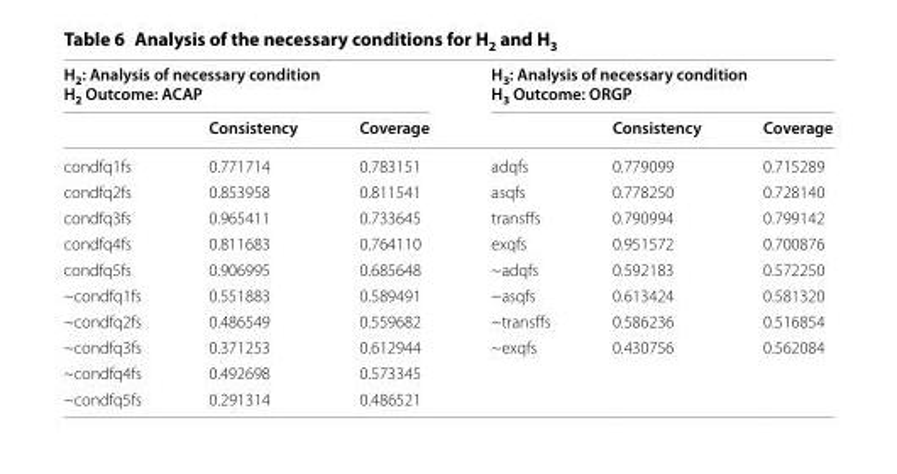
<table><thead><tr><td colspan="3">H<sub>2</sub>: Analysis of necessary condition H<sub>2</sub> Outcome: ACAP</td><td colspan="3">H<sub>3</sub>: Analysis of necessary condition H<sub>3</sub> Outcome: ORGP</td></tr><tr><td></td><td>Consistency</td><td>Coverage</td><td></td><td>Consistency</td><td>Coverage</td></tr></thead><tbody><tr><td>condfq1fs</td><td>0.771714</td><td>0.783151</td><td>adqfs</td><td>0.779099</td><td>0.715289</td></tr><tr><td>condfq2fs</td><td>0.853958</td><td>0.811541</td><td>asqfs</td><td>0.778250</td><td>0.728140</td></tr><tr><td>condfq3fs</td><td>0.965411</td><td>0.733645</td><td>transffs</td><td>0.790994</td><td>0.799142</td></tr><tr><td>condfq4fs</td><td>0.811683</td><td>0.764110</td><td>exqfs</td><td>0.951572</td><td>0.700876</td></tr><tr><td>condfq5fs</td><td>0.906995</td><td>0.685648</td><td>~adqfs</td><td>0.592183</td><td>0.572250</td></tr><tr><td>~condfq1fs</td><td>0.551883</td><td>0.589491</td><td>~asqfs</td><td>0.613424</td><td>0.581320</td></tr><tr><td>~condfq2fs</td><td>0.486549</td><td>0.559682</td><td>~transffs</td><td>0.586236</td><td>0.516854</td></tr><tr><td>~condfq3fs</td><td>0.371253</td><td>0.612944</td><td>~exqfs</td><td>0.430756</td><td>0.562084</td></tr><tr><td>~condfq4fs</td><td>0.492698</td><td>0.573345</td><td></td><td></td><td></td></tr><tr><td>~condfq5fs</td><td>0.291314</td><td>0.486521</td><td></td><td></td><td></td></tr></tbody></table>